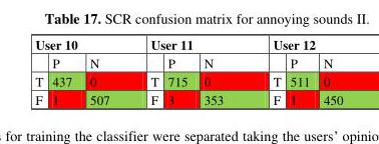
<table><thead><tr><td colspan="3">User 10</td><td colspan="3">User 11</td><td colspan="3">User 12</td></tr><tr><td></td><td>P</td><td>N</td><td></td><td>P</td><td>N</td><td></td><td>P</td><td>N</td></tr></thead><tbody><tr><td>T</td><td>437</td><td>0</td><td>T</td><td>715</td><td>0</td><td>T</td><td>511</td><td>0</td></tr><tr><td>F</td><td>1</td><td>507</td><td>F</td><td>3</td><td>353</td><td>F</td><td>1</td><td>450</td></tr></tbody></table>